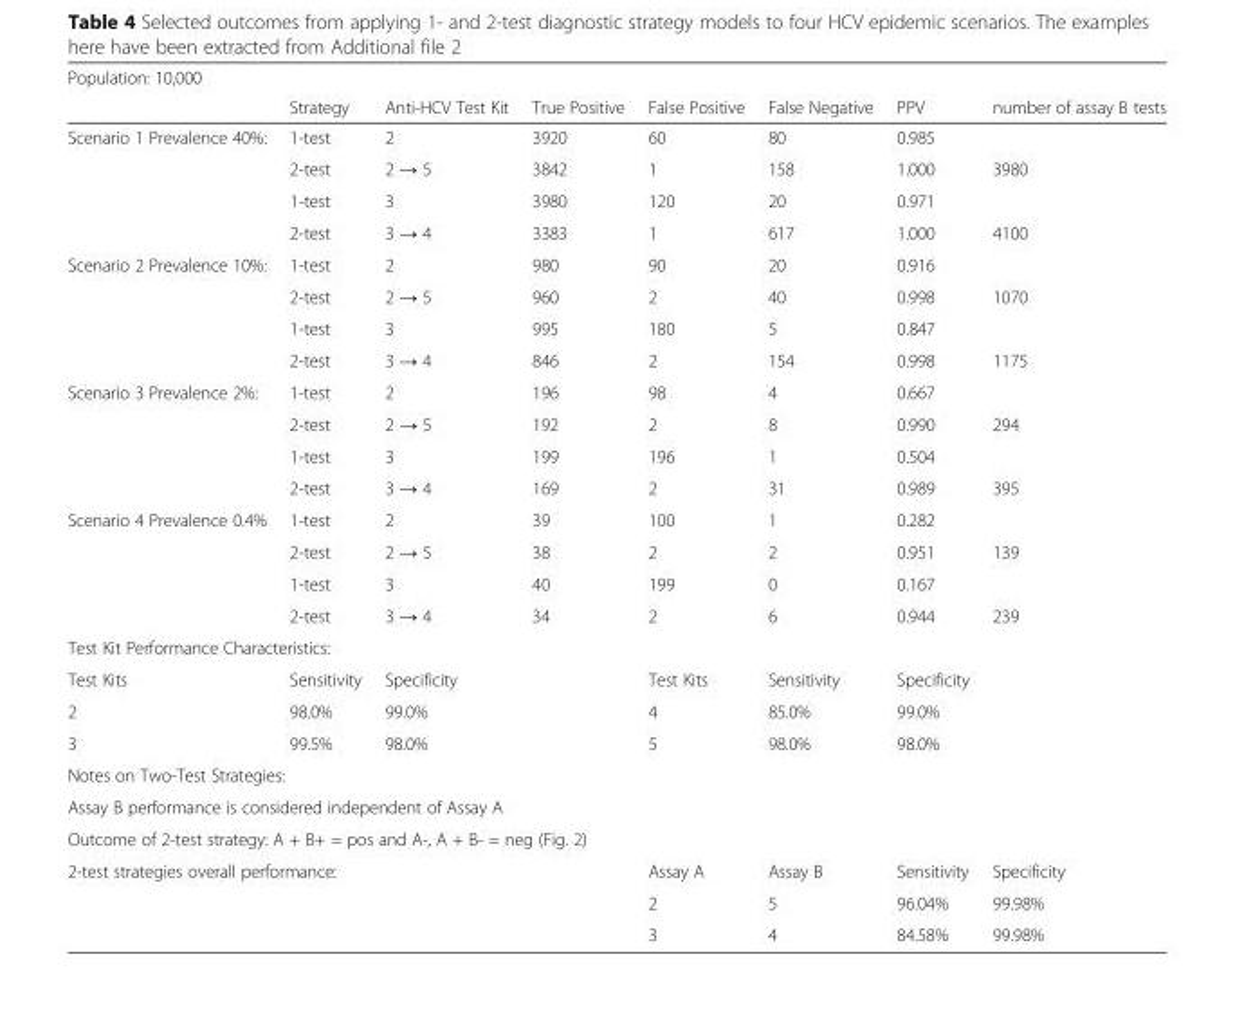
<table><thead><tr><td rowspan="2">Population: 10,000</td><td rowspan="2">Strategy</td><td rowspan="2">Anti-HCV Test Kit</td><td rowspan="2">True Positive</td><td rowspan="2">False Positive</td><td rowspan="2">False Negative</td><td rowspan="2">PPV</td><td rowspan="2">number of assay B tests</td></tr><tr></tr></thead><tbody><tr><td rowspan="4">Scenario 1 Prevalence 40%:</td><td>1-test</td><td>2</td><td>3920</td><td>60</td><td>80</td><td>0.985</td><td></td></tr><tr><td>2-test</td><td>2 → 5</td><td>3842</td><td>1</td><td>158</td><td>1.000</td><td>3980</td></tr><tr><td>1-test</td><td>3</td><td>3980</td><td>120</td><td>20</td><td>0.971</td><td></td></tr><tr><td>2-test</td><td>3 → 4</td><td>3383</td><td>1</td><td>617</td><td>1.000</td><td>4100</td></tr><tr><td rowspan="4">Scenario 2 Prevalence 10%:</td><td>1-test</td><td>2</td><td>980</td><td>90</td><td>20</td><td>0.916</td><td></td></tr><tr><td>2-test</td><td>2 → 5</td><td>960</td><td>2</td><td>40</td><td>0.998</td><td>1070</td></tr><tr><td>1-test</td><td>3</td><td>995</td><td>180</td><td>5</td><td>0.847</td><td></td></tr><tr><td>2-test</td><td>3 → 4</td><td>846</td><td>2</td><td>154</td><td>0.998</td><td>1175</td></tr><tr><td rowspan="4">Scenario 3 Prevalence 2%:</td><td>1-test</td><td>2</td><td>196</td><td>98</td><td>4</td><td>0.667</td><td></td></tr><tr><td>2-test</td><td>2 → 5</td><td>192</td><td>2</td><td>8</td><td>0.990</td><td>294</td></tr><tr><td>1-test</td><td>3</td><td>199</td><td>196</td><td>1</td><td>0.504</td><td></td></tr><tr><td>2-test</td><td>3 → 4</td><td>169</td><td>2</td><td>31</td><td>0.989</td><td>395</td></tr><tr><td rowspan="4">Scenario 4 Prevalence 0.4%</td><td>1-test</td><td>2</td><td>39</td><td>100</td><td>1</td><td>0.282</td><td></td></tr><tr><td>2-test</td><td>2 → 5</td><td>38</td><td>2</td><td>2</td><td>0.951</td><td>139</td></tr><tr><td>1-test</td><td>3</td><td>40</td><td>199</td><td>0</td><td>0.167</td><td></td></tr><tr><td>2-test</td><td>3 → 4</td><td>34</td><td>2</td><td>6</td><td>0.944</td><td>239</td></tr><tr><td colspan="8">Test Kit Performance Characteristics:</td></tr><tr><td>Test Kits</td><td>Sensitivity</td><td>Specificity</td><td></td><td>Test Kits</td><td>Sensitivity</td><td>Specificity</td><td></td></tr><tr><td>2</td><td>98.0%</td><td>99.0%</td><td></td><td>4</td><td>85.0%</td><td>99.0%</td><td></td></tr><tr><td>3</td><td>99.5%</td><td>98.0%</td><td></td><td>5</td><td>98.0%</td><td>98.0%</td><td></td></tr><tr><td colspan="8">Notes on Two-Test Strategies:</td></tr><tr><td colspan="8">Assay B performance is considered independent of Assay A</td></tr><tr><td colspan="8">Outcome of 2-test strategy: A + B+ = pos and A-, A + B- = neg (Fig. 2)</td></tr><tr><td colspan="4">2-test strategies overall performance:</td><td>Assay A</td><td>Assay B</td><td>Sensitivity</td><td>Specificity</td></tr><tr><td></td><td></td><td></td><td></td><td>2</td><td>5</td><td>96.04%</td><td>99.98%</td></tr><tr><td></td><td></td><td></td><td></td><td>3</td><td>4</td><td>84.58%</td><td>99.98%</td></tr></tbody></table>